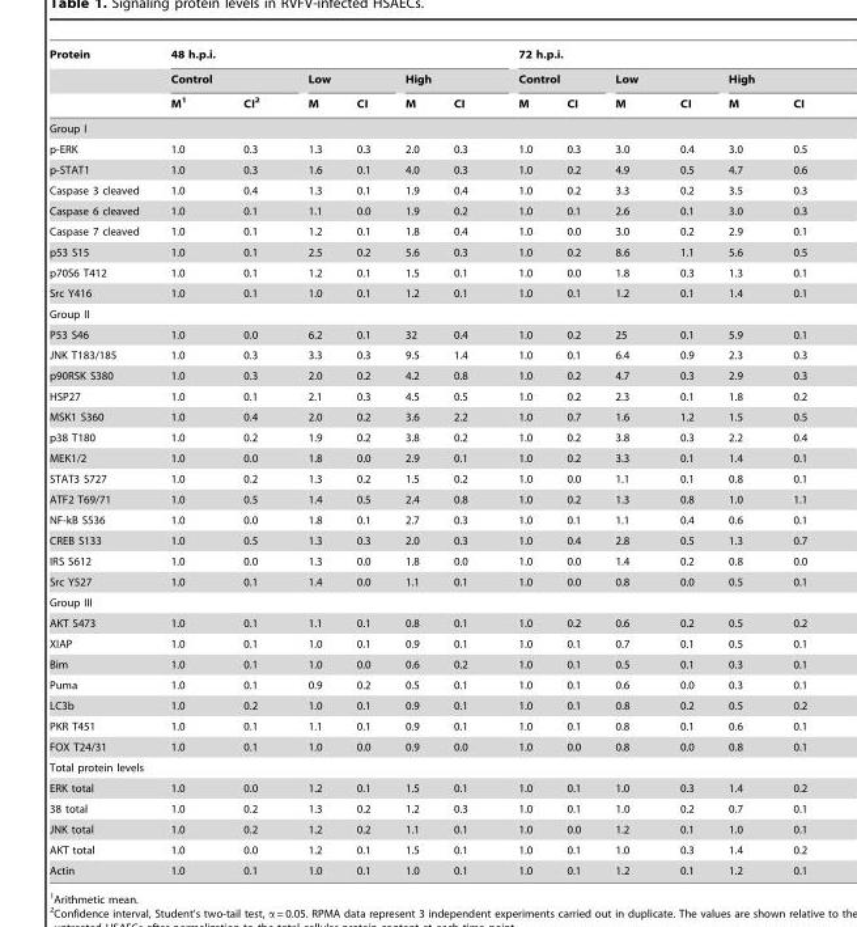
<table><thead><tr><td rowspan="3">Protein</td><td colspan="6">48 h.p.i.</td><td colspan="6">72 h.p.i.</td></tr><tr><td colspan="2">Control</td><td colspan="2">Low</td><td colspan="2">High</td><td colspan="2">Control</td><td colspan="2">Low</td><td colspan="2">High</td></tr><tr><td>M<sup>1</sup></td><td>CI<sup>2</sup></td><td>M</td><td>CI</td><td>M</td><td>CI</td><td>M</td><td>CI</td><td>M</td><td>CI</td><td>M</td><td>CI</td></tr></thead><tbody><tr><td colspan="13">Group I</td></tr><tr><td>p-ERK</td><td>1.0</td><td>0.3</td><td>1.3</td><td>0.3</td><td>2.0</td><td>0.3</td><td>1.0</td><td>0.3</td><td>3.0</td><td>0.4</td><td>3.0</td><td>0.5</td></tr><tr><td>p-STAT1</td><td>1.0</td><td>0.3</td><td>1.6</td><td>0.1</td><td>4.0</td><td>0.3</td><td>1.0</td><td>0.2</td><td>4.9</td><td>0.5</td><td>4.7</td><td>0.6</td></tr><tr><td>Caspase 3 cleaved</td><td>1.0</td><td>0.4</td><td>1.3</td><td>0.1</td><td>1.9</td><td>0.4</td><td>1.0</td><td>0.2</td><td>3.3</td><td>0.2</td><td>3.5</td><td>0.3</td></tr><tr><td>Caspase 6 cleaved</td><td>1.0</td><td>0.1</td><td>1.1</td><td>0.0</td><td>1.9</td><td>0.2</td><td>1.0</td><td>0.1</td><td>2.6</td><td>0.1</td><td>3.0</td><td>0.3</td></tr><tr><td>Caspase 7 cleaved</td><td>1.0</td><td>0.1</td><td>1.2</td><td>0.1</td><td>1.8</td><td>0.4</td><td>1.0</td><td>0.0</td><td>3.0</td><td>0.2</td><td>2.9</td><td>0.1</td></tr><tr><td>p53 S15</td><td>1.0</td><td>0.1</td><td>2.5</td><td>0.2</td><td>5.6</td><td>0.3</td><td>1.0</td><td>0.2</td><td>8.6</td><td>1.1</td><td>5.6</td><td>0.5</td></tr><tr><td>p70S6 T412</td><td>1.0</td><td>0.1</td><td>1.2</td><td>0.1</td><td>1.5</td><td>0.1</td><td>1.0</td><td>0.0</td><td>1.8</td><td>0.3</td><td>1.3</td><td>0.1</td></tr><tr><td>Src Y416</td><td>1.0</td><td>0.1</td><td>1.0</td><td>0.1</td><td>1.2</td><td>0.1</td><td>1.0</td><td>0.1</td><td>1.2</td><td>0.1</td><td>1.4</td><td>0.1</td></tr><tr><td colspan="13">Group II</td></tr><tr><td>P53 S46</td><td>1.0</td><td>0.0</td><td>6.2</td><td>0.1</td><td>32</td><td>0.4</td><td>1.0</td><td>0.2</td><td>25</td><td>0.1</td><td>5.9</td><td>0.1</td></tr><tr><td>JNK T183/185</td><td>1.0</td><td>0.3</td><td>3.3</td><td>0.3</td><td>9.5</td><td>1.4</td><td>1.0</td><td>0.1</td><td>6.4</td><td>0.9</td><td>2.3</td><td>0.3</td></tr><tr><td>p90RSK S380</td><td>1.0</td><td>0.3</td><td>2.0</td><td>0.2</td><td>4.2</td><td>0.8</td><td>1.0</td><td>0.2</td><td>4.7</td><td>0.3</td><td>2.9</td><td>0.3</td></tr><tr><td>HSP27</td><td>1.0</td><td>0.1</td><td>2.1</td><td>0.3</td><td>4.5</td><td>0.5</td><td>1.0</td><td>0.2</td><td>2.3</td><td>0.1</td><td>1.8</td><td>0.2</td></tr><tr><td>MSK1 S360</td><td>1.0</td><td>0.4</td><td>2.0</td><td>0.2</td><td>3.6</td><td>2.2</td><td>1.0</td><td>0.7</td><td>1.6</td><td>1.2</td><td>1.5</td><td>0.5</td></tr><tr><td>p38 T180</td><td>1.0</td><td>0.2</td><td>1.9</td><td>0.2</td><td>3.8</td><td>0.2</td><td>1.0</td><td>0.2</td><td>3.8</td><td>0.3</td><td>2.2</td><td>0.4</td></tr><tr><td>MEK1/2</td><td>1.0</td><td>0.0</td><td>1.8</td><td>0.0</td><td>2.9</td><td>0.1</td><td>1.0</td><td>0.2</td><td>3.3</td><td>0.1</td><td>1.4</td><td>0.1</td></tr><tr><td>STAT3 S727</td><td>1.0</td><td>0.2</td><td>1.3</td><td>0.2</td><td>1.5</td><td>0.2</td><td>1.0</td><td>0.0</td><td>1.1</td><td>0.1</td><td>0.8</td><td>0.1</td></tr><tr><td>ATF2 T69/71</td><td>1.0</td><td>0.5</td><td>1.4</td><td>0.5</td><td>2.4</td><td>0.8</td><td>1.0</td><td>0.2</td><td>1.3</td><td>0.8</td><td>1.0</td><td>1.1</td></tr><tr><td>NF-kB S536</td><td>1.0</td><td>0.0</td><td>1.8</td><td>0.1</td><td>2.7</td><td>0.3</td><td>1.0</td><td>0.1</td><td>1.1</td><td>0.4</td><td>0.6</td><td>0.1</td></tr><tr><td>CREB S133</td><td>1.0</td><td>0.5</td><td>1.3</td><td>0.3</td><td>2.0</td><td>0.3</td><td>1.0</td><td>0.4</td><td>2.8</td><td>0.5</td><td>1.3</td><td>0.7</td></tr><tr><td>IRS S612</td><td>1.0</td><td>0.0</td><td>1.3</td><td>0.0</td><td>1.8</td><td>0.0</td><td>1.0</td><td>0.0</td><td>1.4</td><td>0.2</td><td>0.8</td><td>0.0</td></tr><tr><td>Src Y527</td><td>1.0</td><td>0.1</td><td>1.4</td><td>0.0</td><td>1.1</td><td>0.1</td><td>1.0</td><td>0.0</td><td>0.8</td><td>0.0</td><td>0.5</td><td>0.1</td></tr><tr><td colspan="13">Group III</td></tr><tr><td>AKT S473</td><td>1.0</td><td>0.1</td><td>1.1</td><td>0.1</td><td>0.8</td><td>0.1</td><td>1.0</td><td>0.2</td><td>0.6</td><td>0.2</td><td>0.5</td><td>0.2</td></tr><tr><td>XIAP</td><td>1.0</td><td>0.1</td><td>1.0</td><td>0.1</td><td>0.9</td><td>0.1</td><td>1.0</td><td>0.1</td><td>0.7</td><td>0.1</td><td>0.5</td><td>0.1</td></tr><tr><td>Bim</td><td>1.0</td><td>0.1</td><td>1.0</td><td>0.0</td><td>0.6</td><td>0.2</td><td>1.0</td><td>0.1</td><td>0.5</td><td>0.1</td><td>0.3</td><td>0.1</td></tr><tr><td>Puma</td><td>1.0</td><td>0.1</td><td>0.9</td><td>0.2</td><td>0.5</td><td>0.1</td><td>1.0</td><td>0.1</td><td>0.6</td><td>0.0</td><td>0.3</td><td>0.1</td></tr><tr><td>LC3b</td><td>1.0</td><td>0.2</td><td>1.0</td><td>0.1</td><td>0.9</td><td>0.1</td><td>1.0</td><td>0.1</td><td>0.8</td><td>0.2</td><td>0.5</td><td>0.2</td></tr><tr><td>PKR T451</td><td>1.0</td><td>0.1</td><td>1.1</td><td>0.1</td><td>0.9</td><td>0.1</td><td>1.0</td><td>0.1</td><td>0.8</td><td>0.1</td><td>0.6</td><td>0.1</td></tr><tr><td>FOX T24/31</td><td>1.0</td><td>0.1</td><td>1.0</td><td>0.0</td><td>0.9</td><td>0.0</td><td>1.0</td><td>0.0</td><td>0.8</td><td>0.0</td><td>0.8</td><td>0.1</td></tr><tr><td colspan="13">Total protein levels</td></tr><tr><td>ERK total</td><td>1.0</td><td>0.0</td><td>1.2</td><td>0.1</td><td>1.5</td><td>0.1</td><td>1.0</td><td>0.1</td><td>1.0</td><td>0.3</td><td>1.4</td><td>0.2</td></tr><tr><td>38 total</td><td>1.0</td><td>0.2</td><td>1.3</td><td>0.2</td><td>1.2</td><td>0.3</td><td>1.0</td><td>0.1</td><td>1.0</td><td>0.2</td><td>0.7</td><td>0.1</td></tr><tr><td>JNK total</td><td>1.0</td><td>0.2</td><td>1.2</td><td>0.2</td><td>1.1</td><td>0.1</td><td>1.0</td><td>0.0</td><td>1.2</td><td>0.1</td><td>1.0</td><td>0.1</td></tr><tr><td>AKT total</td><td>1.0</td><td>0.0</td><td>1.2</td><td>0.1</td><td>1.5</td><td>0.1</td><td>1.0</td><td>0.1</td><td>1.0</td><td>0.3</td><td>1.4</td><td>0.2</td></tr><tr><td>Actin</td><td>1.0</td><td>0.1</td><td>1.0</td><td>0.1</td><td>1.0</td><td>0.1</td><td>1.0</td><td>0.1</td><td>1.2</td><td>0.1</td><td>1.2</td><td>0.1</td></tr></tbody></table>